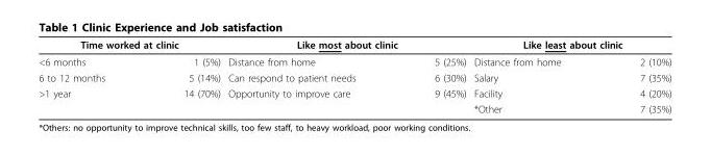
<table><thead><tr><td colspan="2">Time worked at clinic</td><td colspan="2">Like most about clinic</td><td colspan="2">Like least about clinic</td></tr><tr><td>&lt;6 months</td><td>1 (5%)</td><td>Distance from home</td><td>5 (25%)</td><td>Distance from home</td><td>2 (10%)</td></tr></thead><tbody><tr><td>6 to 12 months</td><td>5 (14%)</td><td>Can respond to patient needs</td><td>6 (30%)</td><td>Salary</td><td>7 (35%)</td></tr><tr><td rowspan="2">&gt;1 year</td><td>14 (70%)</td><td>Opportunity to improve care</td><td>9 (45%)</td><td>Facility</td><td>4 (20%)</td></tr><tr><td></td><td></td><td></td><td>*Other</td><td>7 (35%)</td></tr></tbody></table>